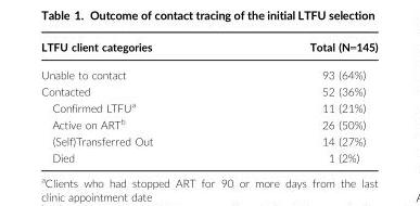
<table><thead><tr><td>LTFU client categories</td><td>Total (N=145)</td></tr></thead><tbody><tr><td>Unable to contact</td><td>93 (64%)</td></tr><tr><td>Contacted</td><td>52 (36%)</td></tr><tr><td>Confirmed LTFU<sup>a</sup></td><td>11 (21%)</td></tr><tr><td>Active on ART<sup>b</sup></td><td>26 (50%)</td></tr><tr><td>(Self)Transferred Out</td><td>14 (27%)</td></tr><tr><td>Died</td><td>1 (2%)</td></tr></tbody></table>